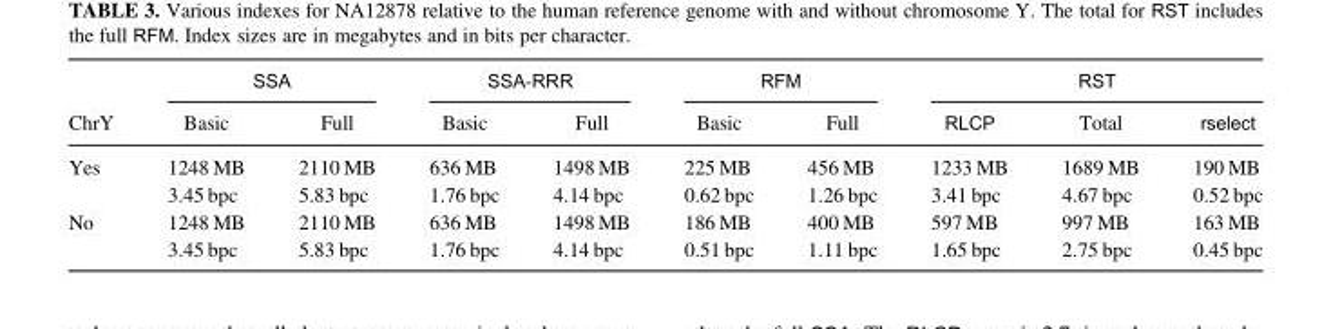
<table><thead><tr><td rowspan="2">ChrY</td><td colspan="2">SSA</td><td colspan="2">SSA-RRR</td><td colspan="2">RFM</td><td colspan="3">RST</td></tr><tr><td>Basic</td><td>Full</td><td>Basic</td><td>Full</td><td>Basic</td><td>Full</td><td>RLCP</td><td>Total</td><td>rselect</td></tr></thead><tbody><tr><td rowspan="2">Yes</td><td>1248 MB</td><td>2110 MB</td><td>636 MB</td><td>1498 MB</td><td>225 MB</td><td>456 MB</td><td>1233 MB</td><td>1689 MB</td><td>190 MB</td></tr><tr><td>3.45 bpc</td><td>5.83 bpc</td><td>1.76 bpc</td><td>4.14 bpc</td><td>0.62 bpc</td><td>1.26 bpc</td><td>3.41 bpc</td><td>4.67 bpc</td><td>0.52 bpc</td></tr><tr><td rowspan="2">No</td><td>1248 MB</td><td>2110 MB</td><td>636 MB</td><td>1498 MB</td><td>186 MB</td><td>400 MB</td><td>597 MB</td><td>997 MB</td><td>163 MB</td></tr><tr><td>3.45 bpc</td><td>5.83 bpc</td><td>1.76 bpc</td><td>4.14 bpc</td><td>0.51 bpc</td><td>1.11 bpc</td><td>1.65 bpc</td><td>2.75 bpc</td><td>0.45 bpc</td></tr></tbody></table>